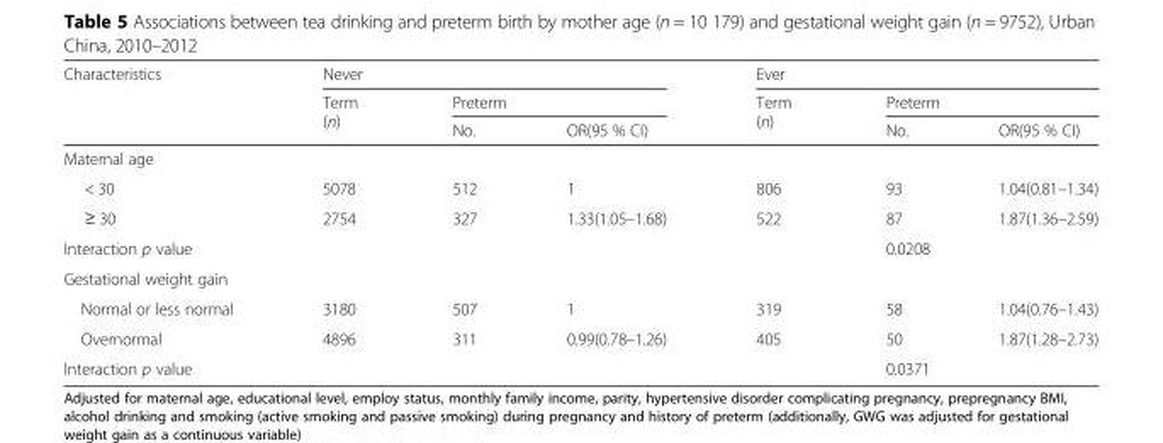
<table><thead><tr><td rowspan="3">Characteristics</td><td colspan="3">Never</td><td colspan="3">Ever</td></tr><tr><td rowspan="2">Term (n)</td><td colspan="2">Preterm</td><td rowspan="2">Term (n)</td><td colspan="2">Preterm</td></tr><tr><td>No.</td><td>OR(95 % CI)</td><td>No.</td><td>OR(95 % CI)</td></tr></thead><tbody><tr><td colspan="7">Maternal age</td></tr><tr><td>&lt; 30</td><td>5078</td><td>512</td><td>1</td><td>806</td><td>93</td><td>1.04(0.81–1.34)</td></tr><tr><td>≥ 30</td><td>2754</td><td>327</td><td>1.33(1.05–1.68)</td><td>522</td><td>87</td><td>1.87(1.36–2.59)</td></tr><tr><td>Interaction p value</td><td></td><td></td><td></td><td></td><td colspan="2">0.0208</td></tr><tr><td colspan="7">Gestational weight gain</td></tr><tr><td>Normal or less normal</td><td>3180</td><td>507</td><td>1</td><td>319</td><td>58</td><td>1.04(0.76–1.43)</td></tr><tr><td>Overnormal</td><td>4896</td><td>311</td><td>0.99(0.78–1.26)</td><td>405</td><td>50</td><td>1.87(1.28–2.73)</td></tr><tr><td>Interaction p value</td><td></td><td></td><td></td><td></td><td colspan="2">0.0371</td></tr></tbody></table>